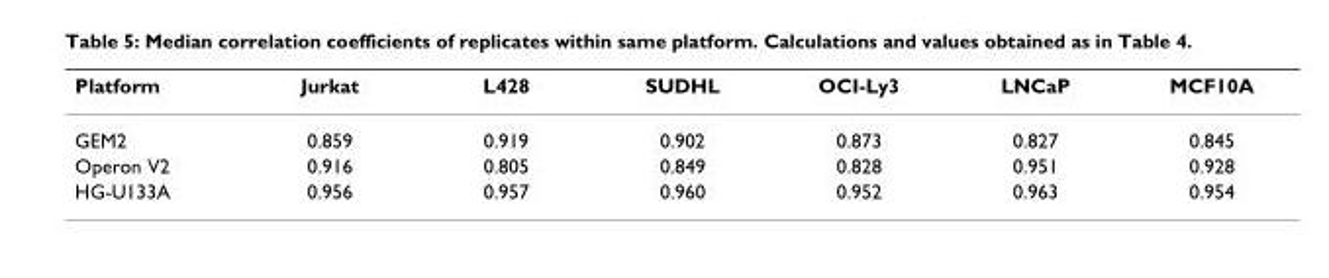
<table><thead><tr><td>Platform</td><td>Jurkat</td><td>L428</td><td>SUDHL</td><td>OCI-Ly3</td><td>LNCaP</td><td>MCF10A</td></tr></thead><tbody><tr><td>GEM2</td><td>0.859</td><td>0.919</td><td>0.902</td><td>0.873</td><td>0.827</td><td>0.845</td></tr><tr><td>Operon V2</td><td>0.916</td><td>0.805</td><td>0.849</td><td>0.828</td><td>0.951</td><td>0.928</td></tr><tr><td>HG-U133A</td><td>0.956</td><td>0.957</td><td>0.960</td><td>0.952</td><td>0.963</td><td>0.954</td></tr></tbody></table>